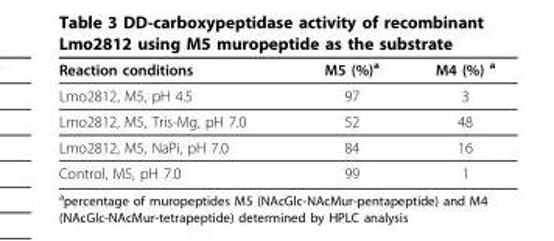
<table><thead><tr><td>Reaction conditions</td><td>M5 (%)<sup>a</sup></td><td>M4 (%) <sup>a</sup></td></tr></thead><tbody><tr><td>Lmo2812, M5, pH 4.5</td><td>97</td><td>3</td></tr><tr><td>Lmo2812, M5, Tris-Mg, pH 7.0</td><td>52</td><td>48</td></tr><tr><td>Lmo2812, M5, NaPi, pH 7.0</td><td>84</td><td>16</td></tr><tr><td>Control, M5, pH 7.0</td><td>99</td><td>1</td></tr></tbody></table>